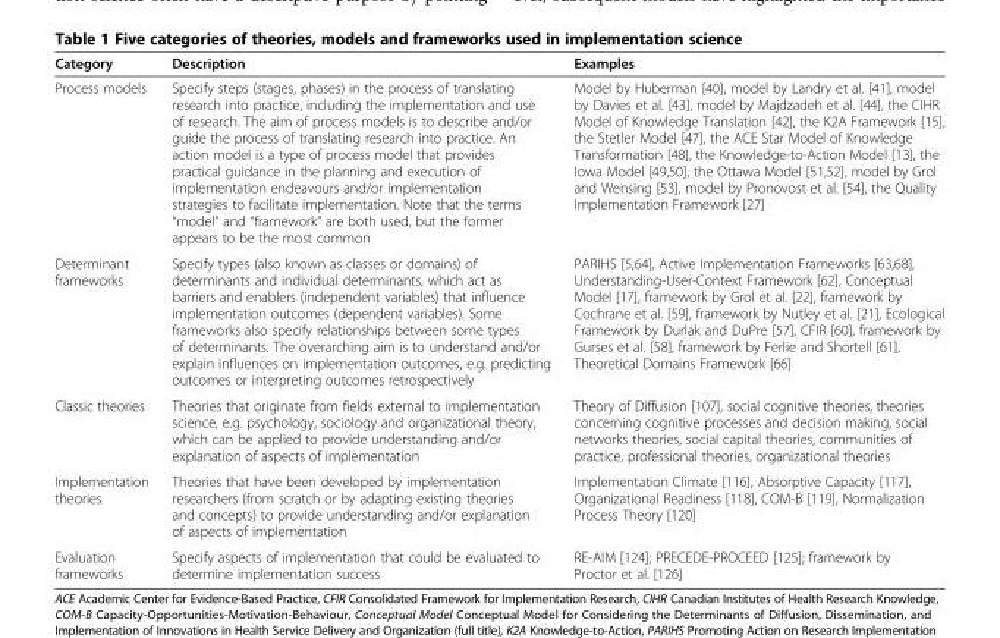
<table><thead><tr><td>Category</td><td>Description</td><td>Examples</td></tr></thead><tbody><tr><td>Process models</td><td>Specify steps (stages, phases) in the process of translating research into practice, including the implementation and use of research. The aim of process models is to describe and/or guide the process of translating research into practice. An action model is a type of process model that provides practical guidance in the planning and execution of implementation endeavours and/or implementation strategies to facilitate implementation. Note that the terms “model” and “framework” are both used, but the former appears to be the most common</td><td>Model by Huberman [40], model by Landry et al. [41], model by Davies et al. [43], model by Majdzadeh et al. [44], the CIHR Model of Knowledge Translation [42], the K2A Framework [15], the Stetler Model [47], the ACE Star Model of Knowledge Transformation [48], the Knowledge-to-Action Model [13], the Iowa Model [49,50], the Ottawa Model [51,52], model by Grol and Wensing [53], model by Pronovost et al. [54], the Quality Implementation Framework [27]</td></tr><tr><td>Determinant frameworks</td><td>Specify types (also known as classes or domains) of determinants and individual determinants, which act as barriers and enablers (independent variables) that influence implementation outcomes (dependent variables). Some frameworks also specify relationships between some types of determinants. The overarching aim is to understand and/or explain influences on implementation outcomes, e.g. predicting outcomes or interpreting outcomes retrospectively</td><td>PARIHS [5,64], Active Implementation Frameworks [63,68], Understanding-User-Context Framework [62], Conceptual Model [17], framework by Grol et al. [22], framework by Cochrane et al. [59], framework by Nutley et al. [21], Ecological Framework by Durlak and DuPre [57], CFIR [60], framework by Gurses et al. [58], framework by Ferlie and Shortell [61], Theoretical Domains Framework [66]</td></tr><tr><td>Classic theories</td><td>Theories that originate from fields external to implementation science, e.g. psychology, sociology and organizational theory, which can be applied to provide understanding and/or explanation of aspects of implementation</td><td>Theory of Diffusion [107], social cognitive theories, theories concerning cognitive processes and decision making, social networks theories, social capital theories, communities of practice, professional theories, organizational theories</td></tr><tr><td>Implementation theories</td><td>Theories that have been developed by implementation researchers (from scratch or by adapting existing theories and concepts) to provide understanding and/or explanation of aspects of implementation</td><td>Implementation Climate [116], Absorptive Capacity [117], Organizational Readiness [118], COM-B [119], Normalization Process Theory [120]</td></tr><tr><td>Evaluation frameworks</td><td>Specify aspects of implementation that could be evaluated to determine implementation success</td><td>RE-AIM [124]; PRECEDE-PROCEED [125]; framework by Proctor et al. [126]</td></tr></tbody></table>